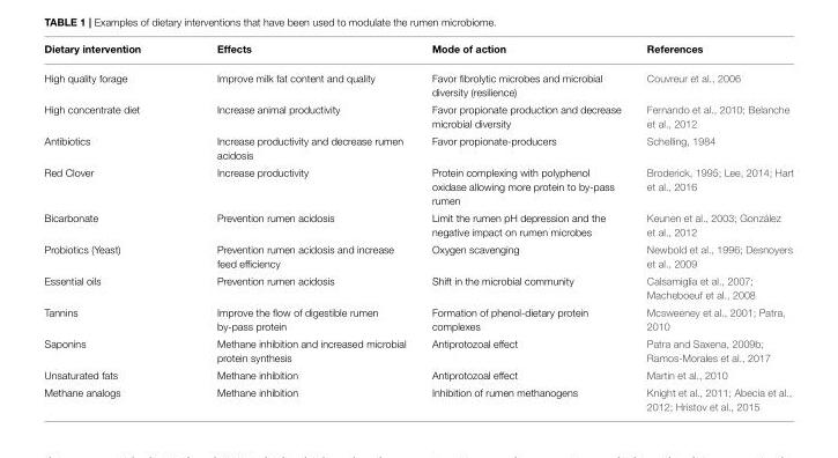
<table><thead><tr><td>Dietary intervention</td><td>Effects</td><td>Mode of action</td><td>References</td></tr></thead><tbody><tr><td>High quality forage</td><td>Improve milk fat content and quality</td><td>Favor fibrolytic microbes and microbial diversity (resilience)</td><td>Couvreur et al., 2006</td></tr><tr><td>High concentrate diet</td><td>Increase animal productivity</td><td>Favor propionate production and decrease microbial diversity</td><td>Fernando et al., 2010; Belanche et al., 2012</td></tr><tr><td>Antibiotics</td><td>Increase productivity and decrease rumen acidosis</td><td>Favor propionate-producers</td><td>Schelling, 1984</td></tr><tr><td>Red Clover</td><td>Increase productivity</td><td>Protein complexing with polyphenol oxidase allowing more protein to by-pass rumen</td><td>Broderick, 1995; Lee, 2014; Hart et al., 2016</td></tr><tr><td>Bicarbonate</td><td>Prevention rumen acidosis</td><td>Limit the rumen pH depression and the negative impact on rumen microbes</td><td>Keunen et al., 2003; González et al., 2012</td></tr><tr><td>Probiotics (Yeast)</td><td>Prevention rumen acidosis and increase feed efficiency</td><td>Oxygen scavenging</td><td>Newbold et al., 1996; Desnoyers et al., 2009</td></tr><tr><td>Essential oils</td><td>Prevention rumen acidosis</td><td>Shift in the microbial community</td><td>Calsamiglia et al., 2007; Macheboeuf et al., 2008</td></tr><tr><td>Tannins</td><td>Improve the flow of digestible rumen by-pass protein</td><td>Formation of phenol-dietary protein complexes</td><td>Mcsweeney et al., 2001; Patra, 2010</td></tr><tr><td>Saponins</td><td>Methane inhibition and increased microbial protein synthesis</td><td>Antiprotozoal effect</td><td>Patra and Saxena, 2009b; Ramos-Morales et al., 2017</td></tr><tr><td>Unsaturated fats</td><td>Methane inhibition</td><td>Antiprotozoal effect</td><td>Martin et al., 2010</td></tr><tr><td>Methane analogs</td><td>Methane inhibition</td><td>Inhibition of rumen methanogens</td><td>Knight et al., 2011; Abecia et al., 2012; Hristov et al., 2015</td></tr></tbody></table>